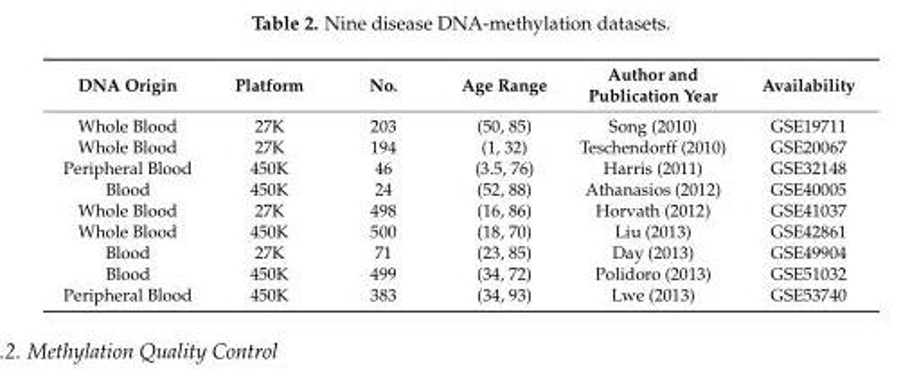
<table><thead><tr><td>DNA Origin</td><td>Platform</td><td>No.</td><td>Age Range</td><td>Author and Publication Year</td><td>Availability</td></tr></thead><tbody><tr><td>Whole Blood</td><td>27K</td><td>203</td><td>(50, 85)</td><td>Song (2010)</td><td>GSE19711</td></tr><tr><td>Whole Blood</td><td>27K</td><td>194</td><td>(1, 32)</td><td>Teschendorff (2010)</td><td>GSE20067</td></tr><tr><td>Peripheral Blood</td><td>450K</td><td>46</td><td>(3.5, 76)</td><td>Harris (2011)</td><td>GSE32148</td></tr><tr><td>Blood</td><td>450K</td><td>24</td><td>(52, 88)</td><td>Athanasios (2012)</td><td>GSE40005</td></tr><tr><td>Whole Blood</td><td>27K</td><td>498</td><td>(16, 86)</td><td>Horvath (2012)</td><td>GSE41037</td></tr><tr><td>Whole Blood</td><td>450K</td><td>500</td><td>(18, 70)</td><td>Liu (2013)</td><td>GSE42861</td></tr><tr><td>Blood</td><td>27K</td><td>71</td><td>(23, 85)</td><td>Day (2013)</td><td>GSE49904</td></tr><tr><td>Blood</td><td>450K</td><td>499</td><td>(34, 72)</td><td>Polidoro (2013)</td><td>GSE51032</td></tr><tr><td>Peripheral Blood</td><td>450K</td><td>383</td><td>(34, 93)</td><td>Lwe (2013)</td><td>GSE53740</td></tr></tbody></table>